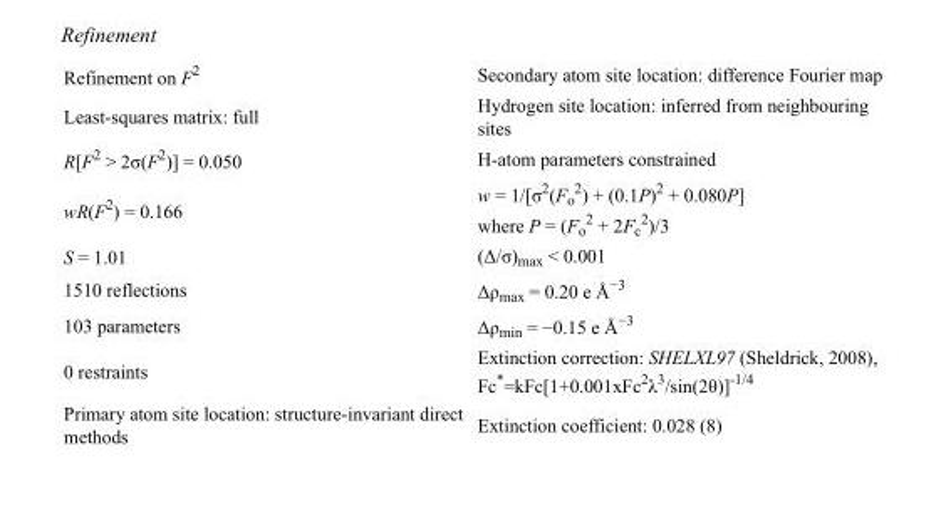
<table><tbody><tr><td>Refinement on F<sup>2</sup></td><td>Secondary atom site location: difference Fourier map</td></tr><tr><td>Least-squares matrix: full</td><td>Hydrogen site location: inferred from neighbouring sites</td></tr><tr><td>R[F<sup>2</sup> &gt; 2σ(F<sup>2</sup>)] = 0.050</td><td>H-atom parameters constrained</td></tr><tr><td>wR(F<sup>2</sup>) = 0.166</td><td>w = 1/[σ<sup>2</sup>(F<sub>o</sub> <sup>2</sup>) + (0.1P)<sup>2</sup> + 0.080P] where P = (F<sub>o</sub> <sup>2</sup> + 2F<sub>c</sub> <sup>2</sup>)/3</td></tr><tr><td>S = 1.01</td><td>(Δ/σ)<sub>max</sub> &lt; 0.001</td></tr><tr><td>1510 reflections</td><td>Δρ<sub>max</sub> = 0.20 e Å<sup>−3</sup></td></tr><tr><td>103 parameters</td><td>Δρ<sub>min</sub> = −0.15 e Å<sup>−3</sup></td></tr><tr><td>0 restraints</td><td>Extinction correction: SHELXL97 (Sheldrick, 2008), Fc*=kFc[1+0.001xFc<sup>2</sup>λ<sup>3</sup>/sin(2θ)]<sup>-1/4</sup></td></tr><tr><td>Primary atom site location: structure-invariant direct methods</td><td>Extinction coefficient: 0.028 (8)</td></tr></tbody></table>